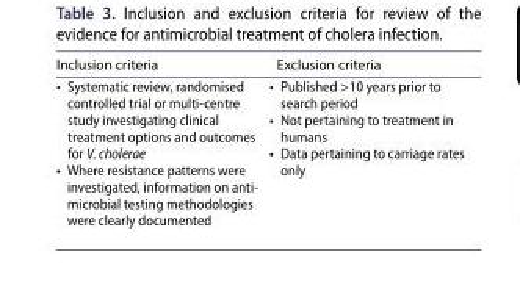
<table><thead><tr><td>Inclusion criteria</td><td>Exclusion criteria</td></tr></thead><tbody><tr><td>• systematic review, randomised controlled trial or multi-centre study investigating clinical treatment options and outcomes for V. cholerae • Where resistance patterns were investigated, information on anti- microbial testing methodologies were clearly documented</td><td>• Published &gt;10 years prior to search period • not pertaining to treatment in humans • data pertaining to carriage rates only</td></tr></tbody></table>